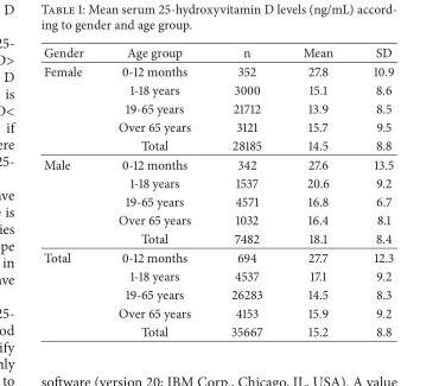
<table><thead><tr><td>Gender</td><td>Age group</td><td>n</td><td>Mean</td><td>SD</td></tr></thead><tbody><tr><td rowspan="5">Female</td><td>0-12 months</td><td>352</td><td>27.8</td><td>10.9</td></tr><tr><td>1-18 years</td><td>3000</td><td>15.1</td><td>8.6</td></tr><tr><td>19-65 years</td><td>21712</td><td>13.9</td><td>8.5</td></tr><tr><td>Over 65 years</td><td>3121</td><td>15.7</td><td>9.5</td></tr><tr><td>Total</td><td>28185</td><td>14.5</td><td>8.8</td></tr><tr><td rowspan="5">Male</td><td>0-12 months</td><td>342</td><td>27.6</td><td>13.5</td></tr><tr><td>1-18 years</td><td>1537</td><td>20.6</td><td>9.2</td></tr><tr><td>19-65 years</td><td>4571</td><td>16.8</td><td>6.7</td></tr><tr><td>Over 65 years</td><td>1032</td><td>16.4</td><td>8.1</td></tr><tr><td>Total</td><td>7482</td><td>18.1</td><td>8.4</td></tr><tr><td rowspan="5">Total</td><td>0-12 months</td><td>694</td><td>27.7</td><td>12.3</td></tr><tr><td>1-18 years</td><td>4537</td><td>17.1</td><td>9.2</td></tr><tr><td>19-65 years</td><td>26283</td><td>14.5</td><td>8.3</td></tr><tr><td>Over 65 years</td><td>4153</td><td>15.9</td><td>9.2</td></tr><tr><td>Total</td><td>35667</td><td>15.2</td><td>8.8</td></tr></tbody></table>